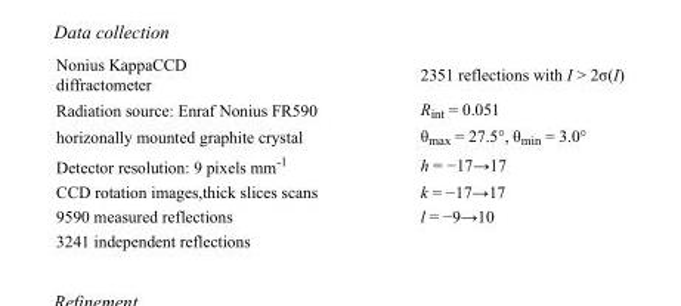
<table><tbody><tr><td>Nonius KappaCCD diffractometer</td><td>2351 reflections with I &gt; 2σ(I)</td></tr><tr><td>Radiation source: Enraf Nonius FR590</td><td>R<sub>int</sub> = 0.051</td></tr><tr><td>horizonally mounted graphite crystal</td><td>θ<sub>max</sub> = 27.5°, θ<sub>min</sub> = 3.0°</td></tr><tr><td>Detector resolution: 9 pixels mm<sup>-1</sup></td><td>h = −17→17</td></tr><tr><td>CCD rotation images,thick slices scans</td><td>k = −17→17</td></tr><tr><td>9590 measured reflections</td><td>l = −9→10</td></tr><tr><td>3241 independent reflections</td><td></td></tr></tbody></table>